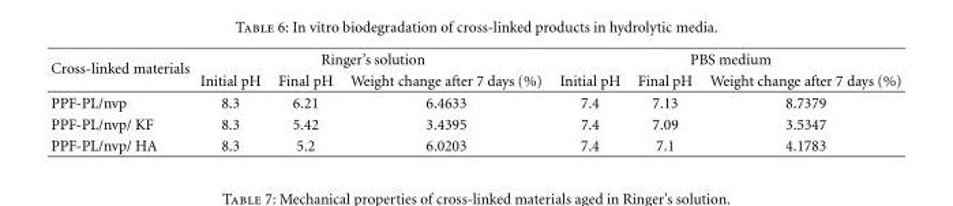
<table><thead><tr><td rowspan="2">Cross-linked materials</td><td colspan="3">Ringer’s solution</td><td colspan="3">PBS medium</td></tr><tr><td>Initial pH</td><td>Final pH</td><td>Weight change after 7 days (%)</td><td>Initial pH</td><td>Final pH</td><td>Weight change after 7 days (%)</td></tr></thead><tbody><tr><td>PPF-PL/nvp</td><td>8.3</td><td>6.21</td><td>6.4633</td><td>7.4</td><td>7.13</td><td>8.7379</td></tr><tr><td>PPF-PL/nvp/ KF</td><td>8.3</td><td>5.42</td><td>3.4395</td><td>7.4</td><td>7.09</td><td>3.5347</td></tr><tr><td>PPF-PL/nvp/ HA</td><td>8.3</td><td>5.2</td><td>6.0203</td><td>7.4</td><td>7.1</td><td>4.1783</td></tr></tbody></table>